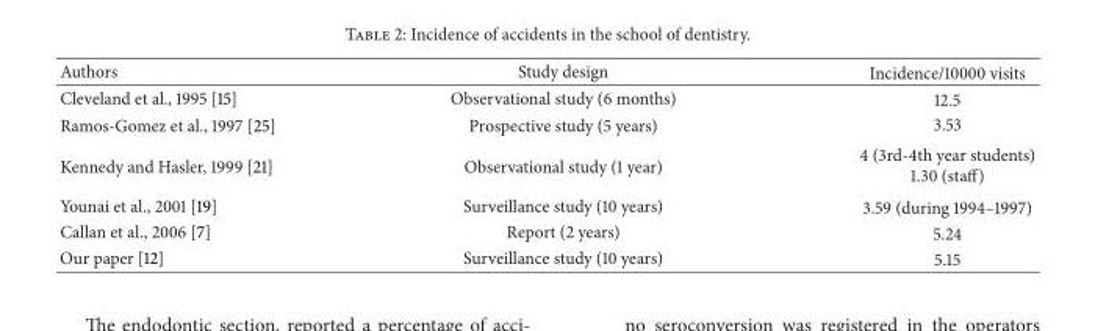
<table><thead><tr><td>Authors</td><td>Study design</td><td>Incidence/10000 visits</td></tr></thead><tbody><tr><td>Cleveland et al., 1995 [15]</td><td>Observational study (6 months)</td><td>12.5</td></tr><tr><td>Ramos-Gomez et al., 1997 [25]</td><td>Prospective study (5 years)</td><td>3.53</td></tr><tr><td>Kennedy and Hasler, 1999 [21]</td><td>Observational study (1 year)</td><td>4 (3rd-4th year students) 1.30 (staff)</td></tr><tr><td>Younai et al., 2001 [19]</td><td>Surveillance study (10 years)</td><td>3.59 (during 1994–1997)</td></tr><tr><td>Callan et al., 2006 [7]</td><td>Report (2 years)</td><td>5.24</td></tr><tr><td>Our paper [12]</td><td>Surveillance study (10 years)</td><td>5.15</td></tr></tbody></table>